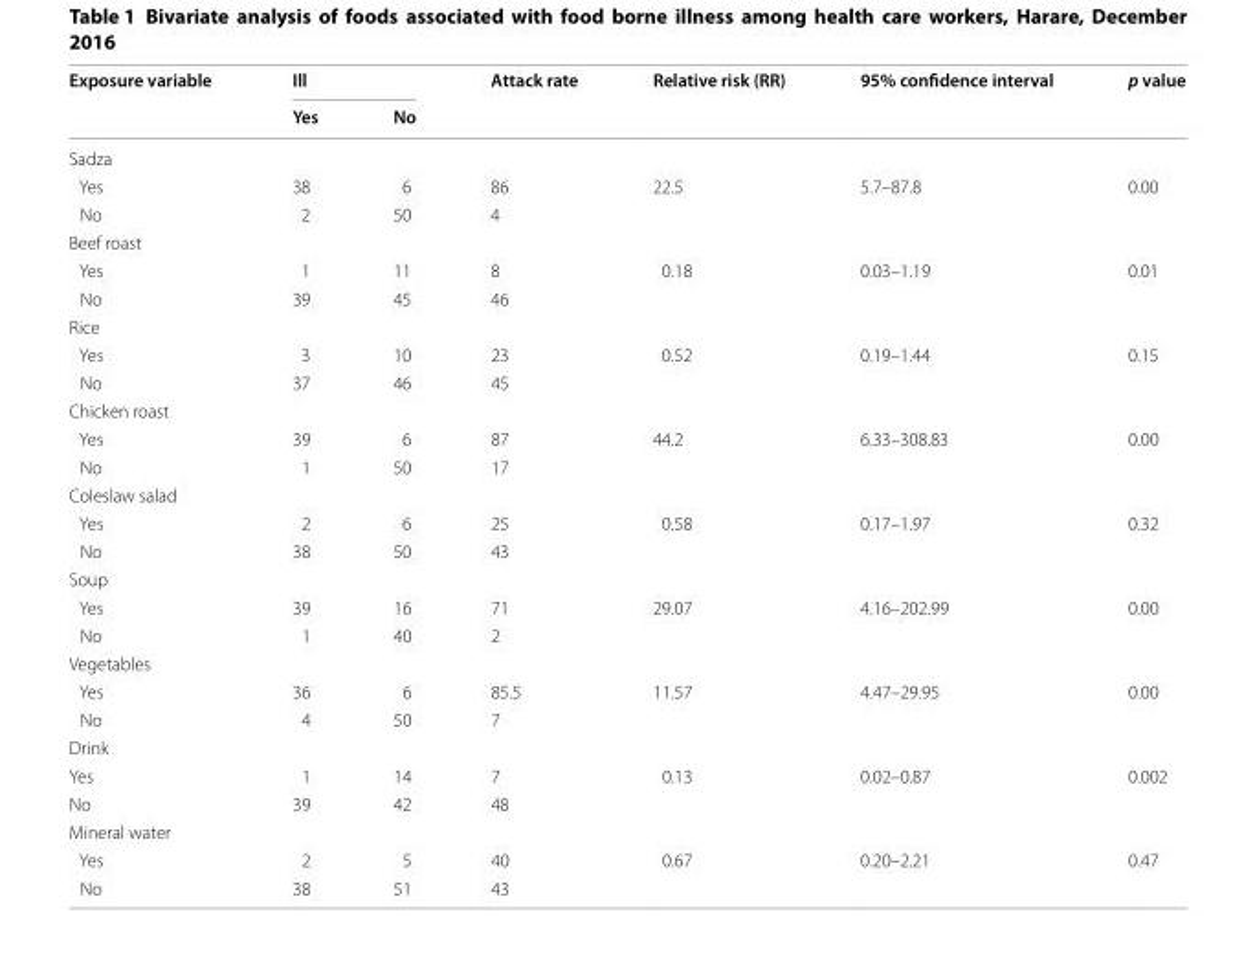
<table><thead><tr><td rowspan="2">Exposure variable</td><td colspan="2">Ill</td><td rowspan="2">Attack rate</td><td rowspan="2">Relative risk (RR)</td><td rowspan="2">95% confidence interval</td><td rowspan="2">p value</td></tr><tr><td>Yes</td><td>No</td></tr></thead><tbody><tr><td colspan="7">Sadza</td></tr><tr><td>Yes</td><td>38</td><td>6</td><td>86</td><td rowspan="2">22.5</td><td rowspan="2">5.7–87.8</td><td rowspan="2">0.00</td></tr><tr><td>No</td><td>2</td><td>50</td><td>4</td></tr><tr><td colspan="7">Beef roast</td></tr><tr><td>Yes</td><td>1</td><td>11</td><td>8</td><td rowspan="2">0.18</td><td rowspan="2">0.03–1.19</td><td rowspan="2">0.01</td></tr><tr><td>No</td><td>39</td><td>45</td><td>46</td></tr><tr><td colspan="7">Rice</td></tr><tr><td>Yes</td><td>3</td><td>10</td><td>23</td><td rowspan="2">0.52</td><td rowspan="2">0.19–1.44</td><td rowspan="2">0.15</td></tr><tr><td>No</td><td>37</td><td>46</td><td>45</td></tr><tr><td colspan="7">Chicken roast</td></tr><tr><td>Yes</td><td>39</td><td>6</td><td>87</td><td rowspan="2">44.2</td><td rowspan="2">6.33–308.83</td><td rowspan="2">0.00</td></tr><tr><td>No</td><td>1</td><td>50</td><td>17</td></tr><tr><td colspan="7">Coleslaw salad</td></tr><tr><td>Yes</td><td>2</td><td>6</td><td>25</td><td rowspan="2">0.58</td><td rowspan="2">0.17–1.97</td><td rowspan="2">0.32</td></tr><tr><td>No</td><td>38</td><td>50</td><td>43</td></tr><tr><td colspan="7">Soup</td></tr><tr><td>Yes</td><td>39</td><td>16</td><td>71</td><td rowspan="2">29.07</td><td rowspan="2">4.16–202.99</td><td rowspan="2">0.00</td></tr><tr><td>No</td><td>1</td><td>40</td><td>2</td></tr><tr><td colspan="7">Vegetables</td></tr><tr><td>Yes</td><td>36</td><td>6</td><td>85.5</td><td rowspan="2">11.57</td><td rowspan="2">4.47–29.95</td><td rowspan="2">0.00</td></tr><tr><td>No</td><td>4</td><td>50</td><td>7</td></tr><tr><td colspan="7">Drink</td></tr><tr><td>Yes</td><td>1</td><td>14</td><td>7</td><td rowspan="2">0.13</td><td rowspan="2">0.02–0.87</td><td rowspan="2">0.002</td></tr><tr><td>No</td><td>39</td><td>42</td><td>48</td></tr><tr><td colspan="7">Mineral water</td></tr><tr><td>Yes</td><td>2</td><td>5</td><td>40</td><td rowspan="2">0.67</td><td rowspan="2">0.20–2.21</td><td rowspan="2">0.47</td></tr><tr><td>No</td><td>38</td><td>51</td><td>43</td></tr></tbody></table>